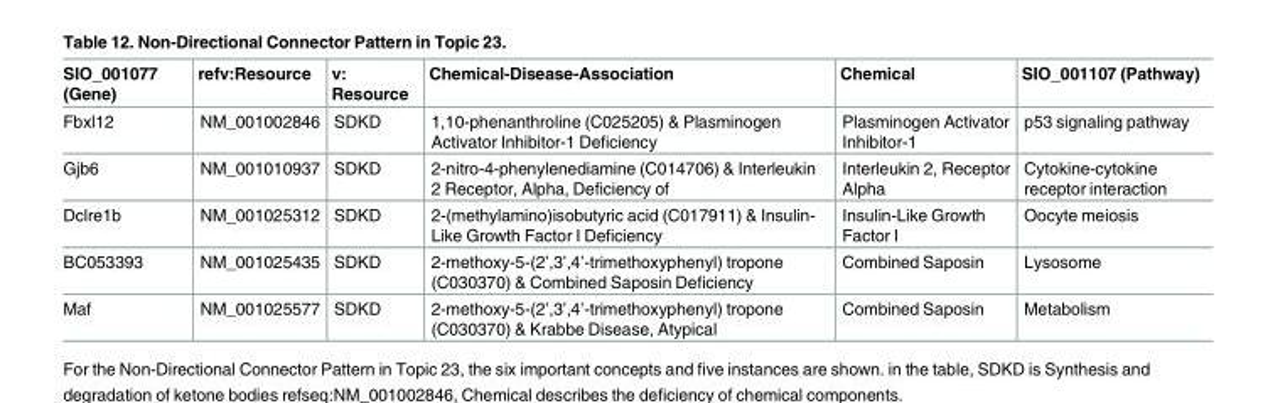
<table><thead><tr><td>SIO_001077 (Gene)</td><td>refv:Resource</td><td>v: Resource</td><td>Chemical-Disease-Association</td><td>Chemical</td><td>SIO_001107 (Pathway)</td></tr></thead><tbody><tr><td>Fbxl12</td><td>NM_001002846</td><td>SDKD</td><td>1,10-phenanthroline (C025205) &amp; Plasminogen Activator Inhibitor-1 Deficiency</td><td>Plasminogen Activator Inhibitor-1</td><td>p53 signaling pathway</td></tr><tr><td>Gjb6</td><td>NM_001010937</td><td>SDKD</td><td>2-nitro-4-phenylenediamine (C014706) &amp; Interleukin 2 Receptor, Alpha, Deficiency of</td><td>Interleukin 2, Receptor Alpha</td><td>Cytokine-cytokine receptor interaction</td></tr><tr><td>Dclre1b</td><td>NM_001025312</td><td>SDKD</td><td>2-(methylamino)isobutyric acid (C017911) &amp; Insulin- Like Growth Factor I Deficiency</td><td>Insulin-Like Growth Factor I</td><td>Oocyte meiosis</td></tr><tr><td>BC053393</td><td>NM_001025435</td><td>SDKD</td><td>2-methoxy-5-(2’,3’,4’-trimethoxyphenyl) tropone (C030370) &amp; Combined Saposin Deficiency</td><td>Combined Saposin</td><td>Lysosome</td></tr><tr><td>Maf</td><td>NM_001025577</td><td>SDKD</td><td>2-methoxy-5-(2’,3’,4’-trimethoxyphenyl) tropone (C030370) &amp; Krabbe Disease, Atypical</td><td>Combined Saposin</td><td>Metabolism</td></tr></tbody></table>